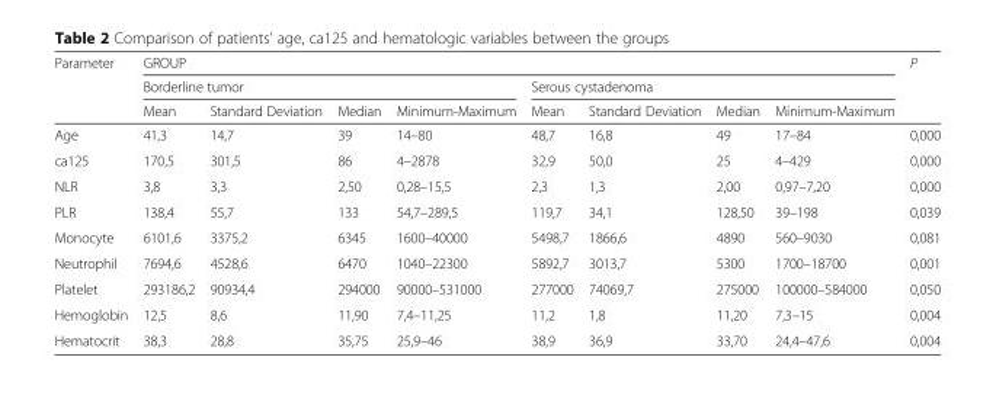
<table><thead><tr><td rowspan="3">Parameter</td><td colspan="8">GROUP</td><td rowspan="3">P</td></tr><tr><td colspan="4">Borderline tumor</td><td colspan="4">Serous cystadenoma</td></tr><tr><td>Mean</td><td>Standard Deviation</td><td>Median</td><td>Minimum-Maximum</td><td>Mean</td><td>Standard Deviation</td><td>Median</td><td>Minimum-Maximum</td></tr></thead><tbody><tr><td>Age</td><td>41,3</td><td>14,7</td><td>39</td><td>14–80</td><td>48,7</td><td>16,8</td><td>49</td><td>17–84</td><td>0,000</td></tr><tr><td>ca125</td><td>170,5</td><td>301,5</td><td>86</td><td>4–2878</td><td>32,9</td><td>50,0</td><td>25</td><td>4–429</td><td>0,000</td></tr><tr><td>NLR</td><td>3,8</td><td>3,3</td><td>2,50</td><td>0,28–15,5</td><td>2,3</td><td>1,3</td><td>2,00</td><td>0,97–7,20</td><td>0,000</td></tr><tr><td>PLR</td><td>138,4</td><td>55,7</td><td>133</td><td>54,7–289,5</td><td>119,7</td><td>34,1</td><td>128,50</td><td>39–198</td><td>0,039</td></tr><tr><td>Monocyte</td><td>6101,6</td><td>3375,2</td><td>6345</td><td>1600–40000</td><td>5498,7</td><td>1866,6</td><td>4890</td><td>560–9030</td><td>0,081</td></tr><tr><td>Neutrophil</td><td>7694,6</td><td>4528,6</td><td>6470</td><td>1040–22300</td><td>5892,7</td><td>3013,7</td><td>5300</td><td>1700–18700</td><td>0,001</td></tr><tr><td>Platelet</td><td>293186,2</td><td>90934,4</td><td>294000</td><td>90000–531000</td><td>277000</td><td>74069,7</td><td>275000</td><td>100000–584000</td><td>0,050</td></tr><tr><td>Hemoglobin</td><td>12,5</td><td>8,6</td><td>11,90</td><td>7,4–11,25</td><td>11,2</td><td>1,8</td><td>11,20</td><td>7,3–15</td><td>0,004</td></tr><tr><td>Hematocrit</td><td>38,3</td><td>28,8</td><td>35,75</td><td>25,9–46</td><td>38,9</td><td>36,9</td><td>33,70</td><td>24,4–47,6</td><td>0,004</td></tr></tbody></table>